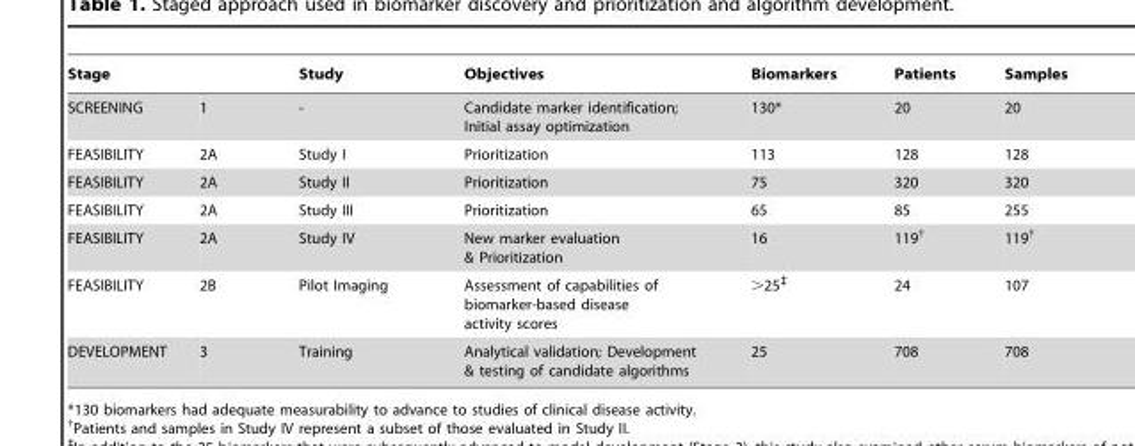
<table><thead><tr><td colspan="2">Stage</td><td rowspan="2">Study -</td><td rowspan="2">Objectives Candidate marker identification; Initial assay optimization</td><td rowspan="2">Biomarkers 130*</td><td rowspan="2">Patients 20</td><td rowspan="2">Samples 20</td></tr><tr><td>SCREENING</td><td>1</td></tr></thead><tbody><tr><td>FEASIBILITY</td><td>2A</td><td>Study I</td><td>Prioritization</td><td>113</td><td>128</td><td>128</td></tr><tr><td>FEASIBILITY</td><td>2A</td><td>Study II</td><td>Prioritization</td><td>75</td><td>320</td><td>320</td></tr><tr><td>FEASIBILITY</td><td>2A</td><td>Study III</td><td>Prioritization</td><td>65</td><td>85</td><td>255</td></tr><tr><td>FEASIBILITY</td><td>2A</td><td>Study IV</td><td>New marker evaluation &amp; Prioritization</td><td>16</td><td>119†</td><td>119†</td></tr><tr><td>FEASIBILITY</td><td>2B</td><td>Pilot Imaging</td><td>Assessment of capabilities of biomarker-based disease activity scores</td><td>&gt;25‡</td><td>24</td><td>107</td></tr><tr><td>DEVELOPMENT</td><td>3</td><td>Training</td><td>Analytical validation; Development &amp; testing of candidate algorithms</td><td>25</td><td>708</td><td>708</td></tr></tbody></table>